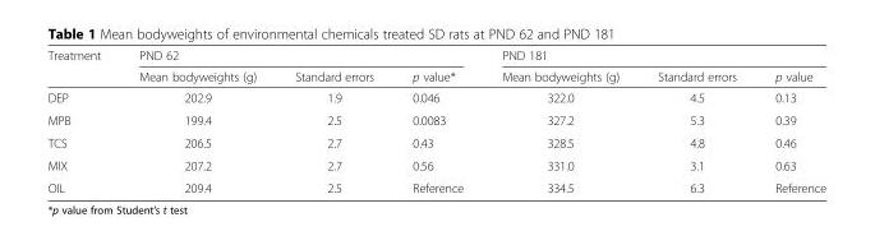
<table><thead><tr><td rowspan="2">Treatment</td><td colspan="3">PND 62</td><td colspan="3">PND 181</td></tr><tr><td>Mean bodyweights (g)</td><td>Standard errors</td><td>p value*</td><td>Mean bodyweights (g)</td><td>Standard errors</td><td>p value</td></tr></thead><tbody><tr><td>DEP</td><td>202.9</td><td>1.9</td><td>0.046</td><td>322.0</td><td>4.5</td><td>0.13</td></tr><tr><td>MPB</td><td>199.4</td><td>2.5</td><td>0.0083</td><td>327.2</td><td>5.3</td><td>0.39</td></tr><tr><td>TCS</td><td>206.5</td><td>2.7</td><td>0.43</td><td>328.5</td><td>4.8</td><td>0.46</td></tr><tr><td>MIX</td><td>207.2</td><td>2.7</td><td>0.56</td><td>331.0</td><td>3.1</td><td>0.63</td></tr><tr><td>OIL</td><td>209.4</td><td>2.5</td><td>Reference</td><td>334.5</td><td>6.3</td><td>Reference</td></tr></tbody></table>